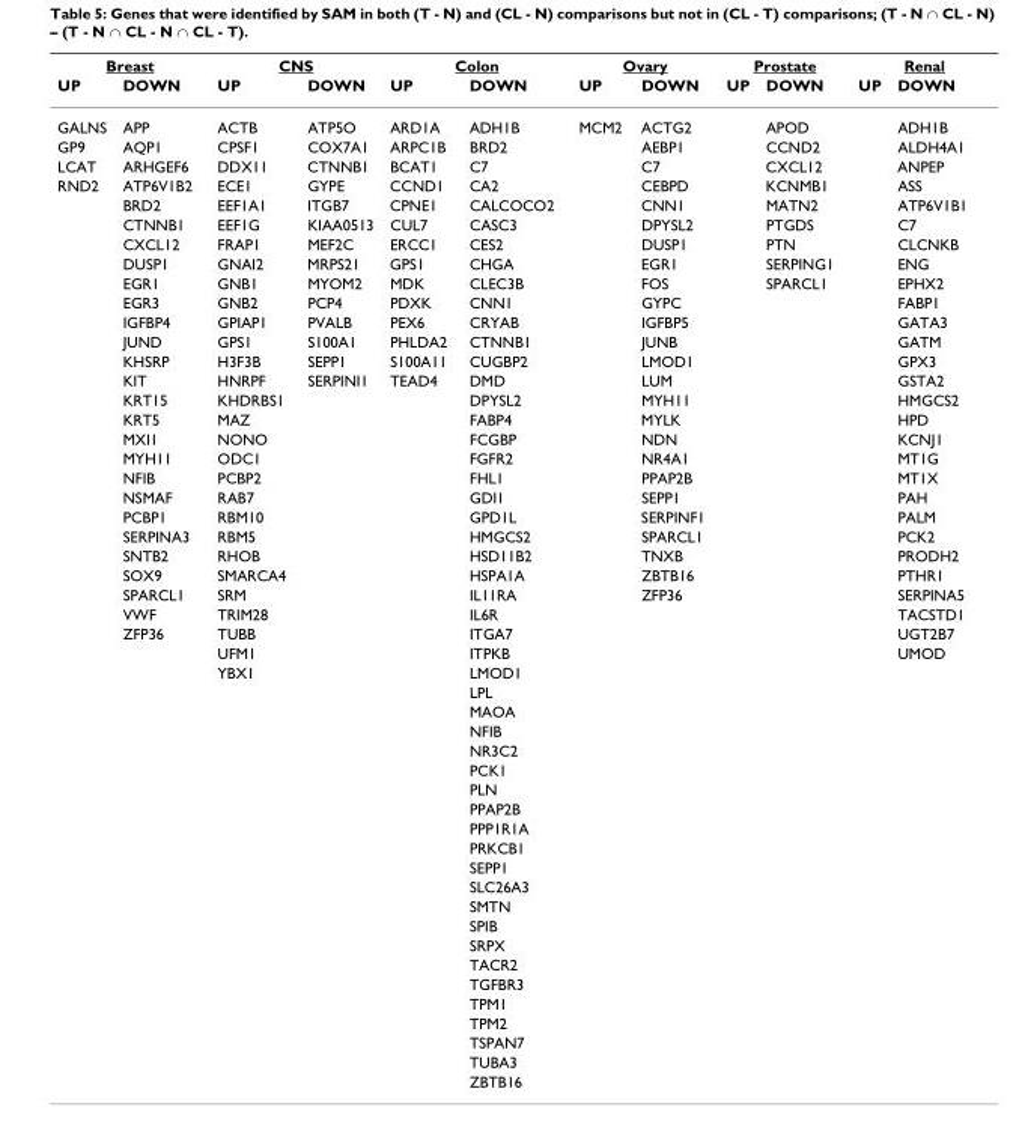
<table><thead><tr><td colspan="2">Breast</td><td colspan="2">CNS</td><td colspan="2">Colon</td><td colspan="2">Ovary</td><td colspan="2">Prostate</td><td colspan="2">Renal</td></tr><tr><td>UP</td><td>DOWN</td><td>UP</td><td>DOWN</td><td>UP</td><td>DOWN</td><td>UP</td><td>DOWN</td><td>UP</td><td>DOWN</td><td>UP</td><td>DOWN</td></tr></thead><tbody><tr><td>GALNS</td><td>APP</td><td>ACTB</td><td>ATP5O</td><td>ARD1A</td><td>ADH1B</td><td>MCM2</td><td>ACTG2</td><td></td><td>APOD</td><td></td><td>ADH1B</td></tr><tr><td>GP9</td><td>AQP1</td><td>CPSF1</td><td>COX7A1</td><td>ARPC1B</td><td>BRD2</td><td></td><td>AEBP1</td><td></td><td>CCND2</td><td></td><td>ALDH4A1</td></tr><tr><td>LCAT</td><td>ARHGEF6</td><td>DDX11</td><td>CTNNB1</td><td>BCAT1</td><td>C7</td><td></td><td>C7</td><td></td><td>CXCL12</td><td></td><td>ANPEP</td></tr><tr><td rowspan="47">RND2</td><td>ATP6V1B2</td><td>ECE1</td><td>GYPE</td><td>CCND1</td><td>CA2</td><td></td><td>CEBPD</td><td></td><td>KCNMB1</td><td></td><td>ASS</td></tr><tr><td>BRD2</td><td>EEF1A1</td><td>ITGB7</td><td>CPNE1</td><td>CALCOCO2</td><td></td><td>CNN1</td><td></td><td>MATN2</td><td></td><td>ATP6V1B1</td></tr><tr><td>CTNNB1</td><td>EEF1G</td><td>KIAA0513</td><td>CUL7</td><td>CASC3</td><td></td><td>DPYSL2</td><td></td><td>PTGDS</td><td></td><td>C7</td></tr><tr><td>CXCL12</td><td>FRAP1</td><td>MEF2C</td><td>ERCC1</td><td>CES2</td><td></td><td>DUSP1</td><td></td><td>PTN</td><td></td><td>CLCNKB</td></tr><tr><td>DUSP1</td><td>GNAI2</td><td>MRPS21</td><td>GPS1</td><td>CHGA</td><td></td><td>EGR1</td><td></td><td>SERPING1</td><td></td><td>ENG</td></tr><tr><td>EGR1</td><td>GNB1</td><td>MYOM2</td><td>MDK</td><td>CLEC3B</td><td></td><td>FOS</td><td></td><td>SPARCL1</td><td></td><td>EPHX2</td></tr><tr><td>EGR3</td><td>GNB2</td><td>PCP4</td><td>PDXK</td><td>CNN1</td><td></td><td>GYPC</td><td></td><td></td><td></td><td>FABP1</td></tr><tr><td>IGFBP4</td><td>GPIAP1</td><td>PVALB</td><td>PEX6</td><td>CRYAB</td><td></td><td>IGFBP5</td><td></td><td></td><td></td><td>GATA3</td></tr><tr><td>JUND</td><td>GPS1</td><td>S100A1</td><td>PHLDA2</td><td>CTNNB1</td><td></td><td>JUNB</td><td></td><td></td><td></td><td>GATM</td></tr><tr><td>KHSRP</td><td>H3F3B</td><td>SEPP1</td><td>S100A11</td><td>CUGBP2</td><td></td><td>LMOD1</td><td></td><td></td><td></td><td>GPX3</td></tr><tr><td>KIT</td><td>HNRPF</td><td>SERPINI1</td><td>TEAD4</td><td>DMD</td><td></td><td>LUM</td><td></td><td></td><td></td><td>GSTA2</td></tr><tr><td>KRT15</td><td>KHDRBS1</td><td></td><td></td><td>DPYSL2</td><td></td><td>MYH11</td><td></td><td></td><td></td><td>HMGCS2</td></tr><tr><td>KRT5</td><td>MAZ</td><td></td><td></td><td>FABP4</td><td></td><td>MYLK</td><td></td><td></td><td></td><td>HPD</td></tr><tr><td>MXI1</td><td>NONO</td><td></td><td></td><td>FCGBP</td><td></td><td>NDN</td><td></td><td></td><td></td><td>KCNJ1</td></tr><tr><td>MYH11</td><td>ODC1</td><td></td><td></td><td>FGFR2</td><td></td><td>NR4A1</td><td></td><td></td><td></td><td>MT1G</td></tr><tr><td>NFIB</td><td>PCBP2</td><td></td><td></td><td>FHL1</td><td></td><td>PPAP2B</td><td></td><td></td><td></td><td>MT1X</td></tr><tr><td>NSMAF</td><td>RAB7</td><td></td><td></td><td>GDI1</td><td></td><td>SEPP1</td><td></td><td></td><td></td><td>PAH</td></tr><tr><td>PCBP1</td><td>RBM10</td><td></td><td></td><td>GPD1L</td><td></td><td>SERPINF1</td><td></td><td></td><td></td><td>PALM</td></tr><tr><td>SERPINA3</td><td>RBM5</td><td></td><td></td><td>HMGCS2</td><td></td><td>SPARCL1</td><td></td><td></td><td></td><td>PCK2</td></tr><tr><td>SNTB2</td><td>RHOB</td><td></td><td></td><td>HSD11B2</td><td></td><td>TNXB</td><td></td><td></td><td></td><td>PRODH2</td></tr><tr><td>SOX9</td><td>SMARCA4</td><td></td><td></td><td>HSPA1A</td><td></td><td>ZBTB16</td><td></td><td></td><td></td><td>PTHR1</td></tr><tr><td>SPARCL1</td><td>SRM</td><td></td><td></td><td>IL11RA</td><td></td><td>ZFP36</td><td></td><td></td><td></td><td>SERPINA5</td></tr><tr><td>VWF</td><td>TRIM28</td><td></td><td></td><td>IL6R</td><td></td><td></td><td></td><td></td><td></td><td>TACSTD1</td></tr><tr><td>ZFP36</td><td>TUBB</td><td></td><td></td><td>ITGA7</td><td></td><td></td><td></td><td></td><td></td><td>UGT2B7</td></tr><tr><td></td><td>UFM1</td><td></td><td></td><td>ITPKB</td><td></td><td></td><td></td><td></td><td></td><td>UMOD</td></tr><tr><td></td><td>YBX1</td><td></td><td></td><td>LMOD1</td><td></td><td></td><td></td><td></td><td></td><td></td></tr><tr><td></td><td></td><td></td><td></td><td>LPL</td><td></td><td></td><td></td><td></td><td></td><td></td></tr><tr><td></td><td></td><td></td><td></td><td>MAOA</td><td></td><td></td><td></td><td></td><td></td><td></td></tr><tr><td></td><td></td><td></td><td></td><td>NFIB</td><td></td><td></td><td></td><td></td><td></td><td></td></tr><tr><td></td><td></td><td></td><td></td><td>NR3C2</td><td></td><td></td><td></td><td></td><td></td><td></td></tr><tr><td></td><td></td><td></td><td></td><td>PCK1</td><td></td><td></td><td></td><td></td><td></td><td></td></tr><tr><td></td><td></td><td></td><td></td><td>PLN</td><td></td><td></td><td></td><td></td><td></td><td></td></tr><tr><td></td><td></td><td></td><td></td><td>PPAP2B</td><td></td><td></td><td></td><td></td><td></td><td></td></tr><tr><td></td><td></td><td></td><td></td><td>PPP1R1A</td><td></td><td></td><td></td><td></td><td></td><td></td></tr><tr><td></td><td></td><td></td><td></td><td>PRKCB1</td><td></td><td></td><td></td><td></td><td></td><td></td></tr><tr><td></td><td></td><td></td><td></td><td>SEPP1</td><td></td><td></td><td></td><td></td><td></td><td></td></tr><tr><td></td><td></td><td></td><td></td><td>SLC26A3</td><td></td><td></td><td></td><td></td><td></td><td></td></tr><tr><td></td><td></td><td></td><td></td><td>SMTN</td><td></td><td></td><td></td><td></td><td></td><td></td></tr><tr><td></td><td></td><td></td><td></td><td>SPIB</td><td></td><td></td><td></td><td></td><td></td><td></td></tr><tr><td></td><td></td><td></td><td></td><td>SRPX</td><td></td><td></td><td></td><td></td><td></td><td></td></tr><tr><td></td><td></td><td></td><td></td><td>TACR2</td><td></td><td></td><td></td><td></td><td></td><td></td></tr><tr><td></td><td></td><td></td><td></td><td>TGFBR3</td><td></td><td></td><td></td><td></td><td></td><td></td></tr><tr><td></td><td></td><td></td><td></td><td>TPM1</td><td></td><td></td><td></td><td></td><td></td><td></td></tr><tr><td></td><td></td><td></td><td></td><td>TPM2</td><td></td><td></td><td></td><td></td><td></td><td></td></tr><tr><td></td><td></td><td></td><td></td><td>TSPAN7</td><td></td><td></td><td></td><td></td><td></td><td></td></tr><tr><td></td><td></td><td></td><td></td><td>TUBA3</td><td></td><td></td><td></td><td></td><td></td><td></td></tr><tr><td></td><td></td><td></td><td></td><td>ZBTB16</td><td></td><td></td><td></td><td></td><td></td><td></td></tr></tbody></table>